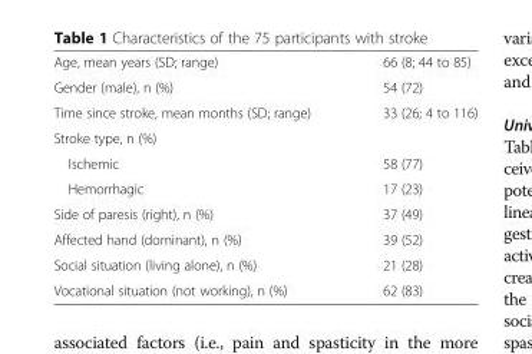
<table><tbody><tr><td>Age, mean years (SD; range)</td><td>66 (8; 44 to 85)</td></tr><tr><td>Gender (male), n (%)</td><td>54 (72)</td></tr><tr><td>Time since stroke, mean months (SD; range)</td><td>33 (26; 4 to 116)</td></tr><tr><td colspan="2">Stroke type, n (%)</td></tr><tr><td>Ischemic</td><td>58 (77)</td></tr><tr><td>Hemorrhagic</td><td>17 (23)</td></tr><tr><td>Side of paresis (right), n (%)</td><td>37 (49)</td></tr><tr><td>Affected hand (dominant), n (%)</td><td>39 (52)</td></tr><tr><td>Social situation (living alone), n (%)</td><td>21 (28)</td></tr><tr><td>Vocational situation (not working), n (%)</td><td>62 (83)</td></tr></tbody></table>